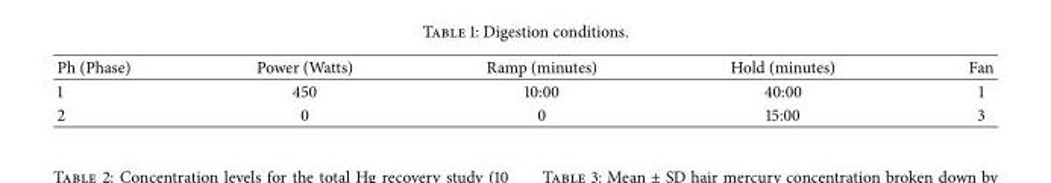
<table><tbody><tr><td>Ph (Phase)</td><td>Power (Watts)</td><td>Ramp (minutes)</td><td>Hold (minutes)</td><td>Fan</td></tr><tr><td>1</td><td>450</td><td>10:00</td><td>40:00</td><td>1</td></tr><tr><td>2</td><td>0</td><td>0</td><td>15:00</td><td>3</td></tr></tbody></table>